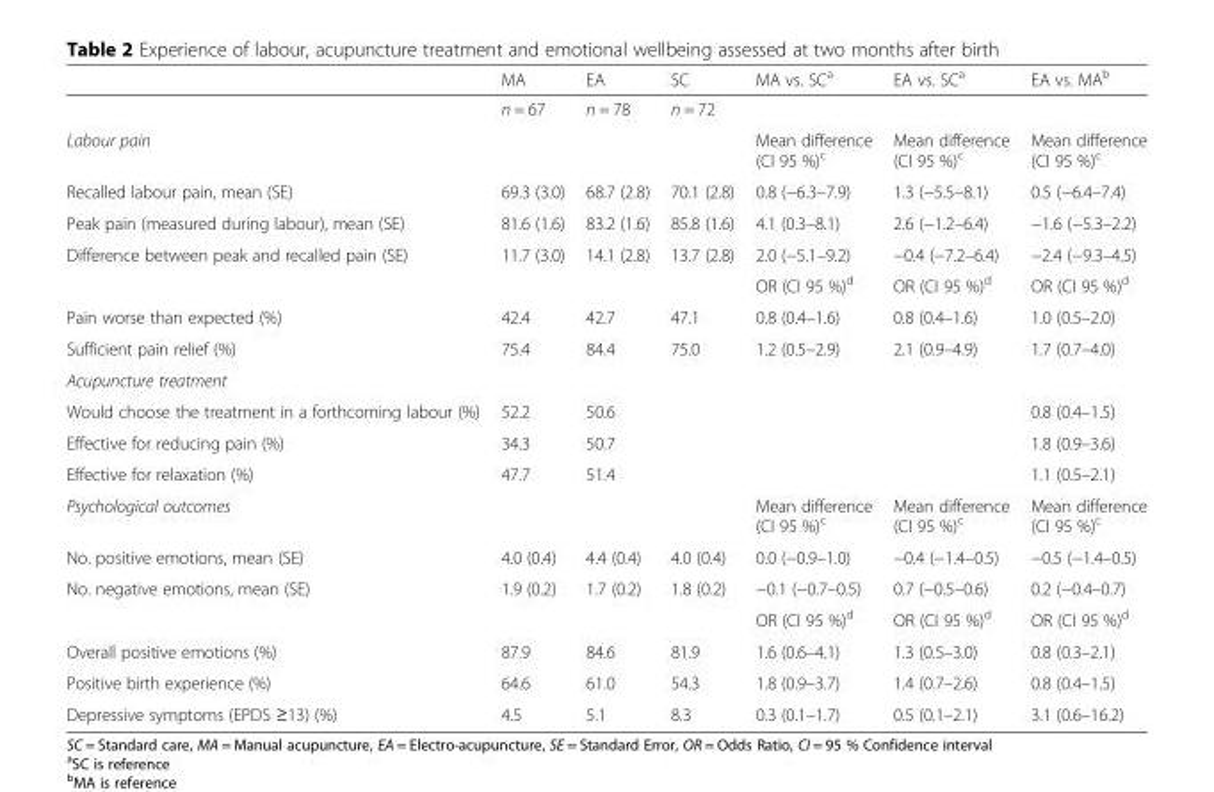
<table><thead><tr><td></td><td>MA</td><td>EA</td><td>SC</td><td>MA vs. SC<sup>a</sup></td><td>EA vs. SC<sup>a</sup></td><td>EA vs. MA<sup>b</sup></td></tr></thead><tbody><tr><td></td><td>n = 67</td><td>n = 78</td><td>n = 72</td><td></td><td></td><td></td></tr><tr><td>Labour pain</td><td></td><td></td><td></td><td>Mean difference (CI 95 %)<sup>c</sup></td><td>Mean difference (CI 95 %)<sup>c</sup></td><td>Mean difference (CI 95 %)<sup>c</sup></td></tr><tr><td>Recalled labour pain, mean (SE)</td><td>69.3 (3.0)</td><td>68.7 (2.8)</td><td>70.1 (2.8)</td><td>0.8 (−6.3–7.9)</td><td>1.3 (−5.5–8.1)</td><td>0.5 (−6.4–7.4)</td></tr><tr><td>Peak pain (measured during labour), mean (SE)</td><td>81.6 (1.6)</td><td>83.2 (1.6)</td><td>85.8 (1.6)</td><td>4.1 (0.3–8.1)</td><td>2.6 (−1.2–6.4)</td><td>−1.6 (−5.3–2.2)</td></tr><tr><td rowspan="2">Difference between peak and recalled pain (SE)</td><td>11.7 (3.0)</td><td>14.1 (2.8)</td><td>13.7 (2.8)</td><td>2.0 (−5.1–9.2)</td><td>−0.4 (−7.2–6.4)</td><td>−2.4 (−9.3–4.5)</td></tr><tr><td></td><td></td><td></td><td>OR (CI 95 %)<sup>d</sup></td><td>OR (CI 95 %)<sup>d</sup></td><td>OR (CI 95 %)<sup>d</sup></td></tr><tr><td>Pain worse than expected (%)</td><td>42.4</td><td>42.7</td><td>47.1</td><td>0.8 (0.4–1.6)</td><td>0.8 (0.4–1.6)</td><td>1.0 (0.5–2.0)</td></tr><tr><td>Sufficient pain relief (%)</td><td>75.4</td><td>84.4</td><td>75.0</td><td>1.2 (0.5–2.9)</td><td>2.1 (0.9–4.9)</td><td>1.7 (0.7–4.0)</td></tr><tr><td colspan="7">Acupuncture treatment</td></tr><tr><td>Would choose the treatment in a forthcoming labour (%)</td><td>52.2</td><td>50.6</td><td></td><td></td><td></td><td>0.8 (0.4–1.5)</td></tr><tr><td>Effective for reducing pain (%)</td><td>34.3</td><td>50.7</td><td></td><td></td><td></td><td>1.8 (0.9–3.6)</td></tr><tr><td>Effective for relaxation (%)</td><td>47.7</td><td>51.4</td><td></td><td></td><td></td><td>1.1 (0.5–2.1)</td></tr><tr><td colspan="2">Psychological outcomes</td><td></td><td></td><td>Mean difference (CI 95 %)<sup>c</sup></td><td>Mean difference (CI 95 %)<sup>c</sup></td><td>Mean difference (CI 95 %)<sup>c</sup></td></tr><tr><td>No. positive emotions, mean (SE)</td><td>4.0 (0.4)</td><td>4.4 (0.4)</td><td>4.0 (0.4)</td><td>0.0 (−0.9–1.0)</td><td>−0.4 (−1.4–0.5)</td><td>−0.5 (−1.4–0.5)</td></tr><tr><td rowspan="2">No. negative emotions, mean (SE)</td><td>1.9 (0.2)</td><td>1.7 (0.2)</td><td>1.8 (0.2)</td><td>−0.1 (−0.7–0.5)</td><td>0.7 (−0.5–0.6)</td><td>0.2 (−0.4–0.7)</td></tr><tr><td></td><td></td><td></td><td>OR (CI 95 %)<sup>d</sup></td><td>OR (CI 95 %)<sup>d</sup></td><td>OR (CI 95 %)<sup>d</sup></td></tr><tr><td>Overall positive emotions (%)</td><td>87.9</td><td>84.6</td><td>81.9</td><td>1.6 (0.6–4.1)</td><td>1.3 (0.5–3.0)</td><td>0.8 (0.3–2.1)</td></tr><tr><td>Positive birth experience (%)</td><td>64.6</td><td>61.0</td><td>54.3</td><td>1.8 (0.9–3.7)</td><td>1.4 (0.7–2.6)</td><td>0.8 (0.4–1.5)</td></tr><tr><td>Depressive symptoms (EPDS ≥13) (%)</td><td>4.5</td><td>5.1</td><td>8.3</td><td>0.3 (0.1–1.7)</td><td>0.5 (0.1–2.1)</td><td>3.1 (0.6–16.2)</td></tr></tbody></table>